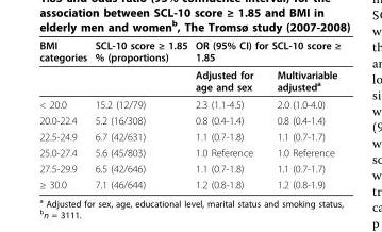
<table><thead><tr><td rowspan="2">BMI categories</td><td rowspan="2">SCL-10 score ≥ 1.85 % (proportions)</td><td colspan="2">OR (95% CI) for SCL-10 score ≥ 1.85</td></tr><tr><td>Adjusted for age and sex</td><td>Multivariable adjusted<sup>a</sup></td></tr></thead><tbody><tr><td>&lt; 20.0</td><td>15.2 (12/79)</td><td>2.3 (1.1-4.5)</td><td>2.0 (1.0-4.0)</td></tr><tr><td>20.0-22.4</td><td>5.2 (16/308)</td><td>0.8 (0.4-1.4)</td><td>0.8 (0.4-1.4)</td></tr><tr><td>22.5-24.9</td><td>6.7 (42/631)</td><td>1.1 (0.7-1.8)</td><td>1.1 (0.7-1.7)</td></tr><tr><td>25.0-27.4</td><td>5.6 (45/803)</td><td>1.0 Reference</td><td>1.0 Reference</td></tr><tr><td>27.5-29.9</td><td>6.5 (42/646)</td><td>1.1 (0.7-1.8)</td><td>1.1 (0.7-1.7)</td></tr><tr><td>≥ 30.0</td><td>7.1 (46/644)</td><td>1.2 (0.8-1.8)</td><td>1.2 (0.8-1.9)</td></tr></tbody></table>